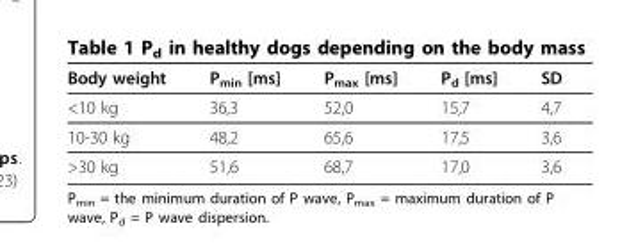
<table><thead><tr><td>Body weight</td><td>P<sub>min</sub> [ms]</td><td>P<sub>max</sub> [ms]</td><td>P<sub>d</sub> [ms]</td><td>SD</td></tr></thead><tbody><tr><td>&lt;10 kg</td><td>36,3</td><td>52,0</td><td>15,7</td><td>4,7</td></tr><tr><td>10-30 kg</td><td>48,2</td><td>65,6</td><td>17,5</td><td>3,6</td></tr><tr><td>&gt;30 kg</td><td>51,6</td><td>68,7</td><td>17,0</td><td>3,6</td></tr></tbody></table>